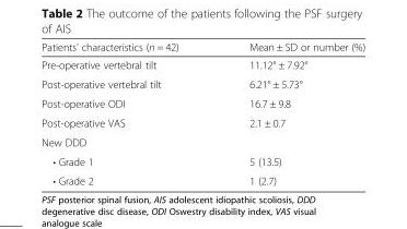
<table><thead><tr><td>Patients’ characteristics (n = 42)</td><td>Mean ± SD or number (%)</td></tr></thead><tbody><tr><td>Pre-operative vertebral tilt</td><td>11.12° ± 7.92°</td></tr><tr><td>Post-operative vertebral tilt</td><td>6.21° ± 5.73°</td></tr><tr><td>Post-operative ODI</td><td>16.7 ± 9.8</td></tr><tr><td>Post-operative VAS</td><td>2.1 ± 0.7</td></tr><tr><td colspan="2">New DDD</td></tr><tr><td>• Grade 1</td><td>5 (13.5)</td></tr><tr><td>• Grade 2</td><td>1 (2.7)</td></tr></tbody></table>